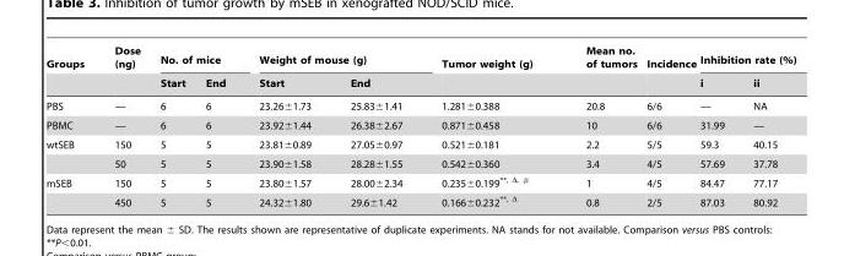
<table><thead><tr><td rowspan="2">Groups</td><td rowspan="2">Dose (ng)</td><td colspan="2">No. of mice</td><td colspan="2">Weight of mouse (g)</td><td rowspan="2">Tumor weight (g)</td><td rowspan="2">Mean no. of tumors</td><td rowspan="2">Incidence</td><td colspan="2">Inhibition rate (%)</td></tr><tr><td>Start</td><td>End</td><td>Start</td><td>End</td><td>i</td><td>ii</td></tr></thead><tbody><tr><td>PBS</td><td>—</td><td>6</td><td>6</td><td>23.26±1.73</td><td>25.83±1.41</td><td>1.281±0.388</td><td>20.8</td><td>6/6</td><td>—</td><td>NA</td></tr><tr><td>PBMC</td><td>—</td><td>6</td><td>6</td><td>23.92±1.44</td><td>26.38±2.67</td><td>0.871±0.458</td><td>10</td><td>6/6</td><td>31.99</td><td>—</td></tr><tr><td rowspan="2">wtSEB</td><td>150</td><td>5</td><td>5</td><td>23.81±0.89</td><td>27.05±0.97</td><td>0.521±0.181</td><td>2.2</td><td>5/5</td><td>59.3</td><td>40.15</td></tr><tr><td>50</td><td>5</td><td>5</td><td>23.90±1.58</td><td>28.28±1.55</td><td>0.542±0.360</td><td>3.4</td><td>4/5</td><td>57.69</td><td>37.78</td></tr><tr><td rowspan="2">mSEB</td><td>150</td><td>5</td><td>5</td><td>23.80±1.57</td><td>28.00±2.34</td><td>0.235±0.199**<sup>,</sup> Δ<sup>,</sup> #</td><td>1</td><td>4/5</td><td>84.47</td><td>77.17</td></tr><tr><td>450</td><td>5</td><td>5</td><td>24.32±1.80</td><td>29.6±1.42</td><td>0.166±0.232**<sup>,</sup> Δ</td><td>0.8</td><td>2/5</td><td>87.03</td><td>80.92</td></tr></tbody></table>